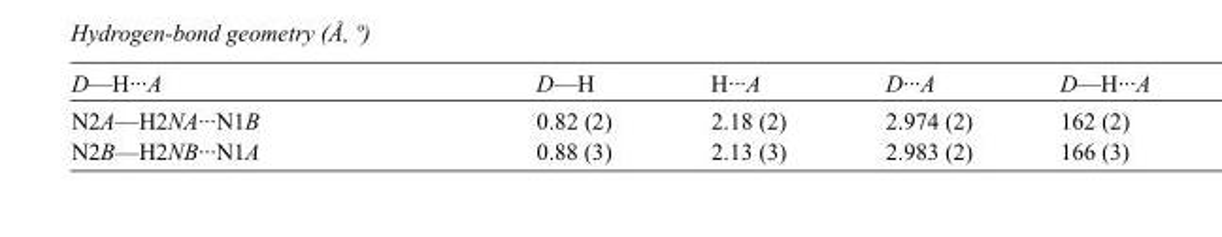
<table><tbody><tr><td>D—H···A</td><td>D—H</td><td>H···A</td><td>D···A</td><td>D—H···A</td></tr><tr><td>N2A—H2NA···N1B</td><td>0.82 (2)</td><td>2.18 (2)</td><td>2.974 (2)</td><td>162 (2)</td></tr><tr><td>N2B—H2NB···N1A</td><td>0.88 (3)</td><td>2.13 (3)</td><td>2.983 (2)</td><td>166 (3)</td></tr></tbody></table>